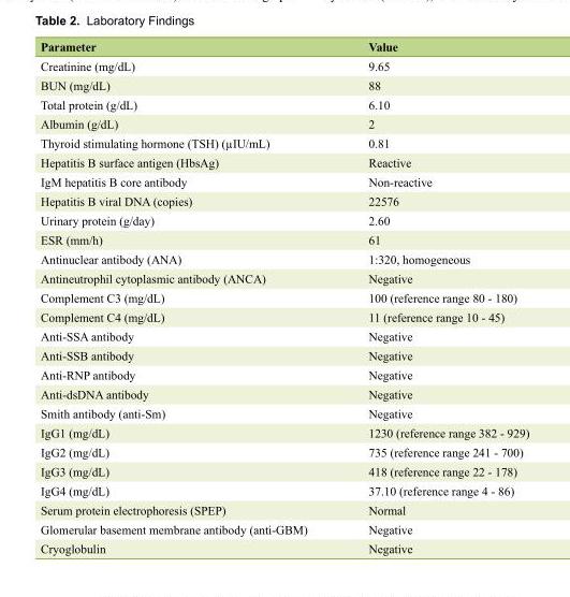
<table><thead><tr><td>Parameter</td><td>Value</td></tr></thead><tbody><tr><td>Creatinine (mg/dL)</td><td>9.65</td></tr><tr><td>BUN (mg/dL)</td><td>88</td></tr><tr><td>Total protein (g/dL)</td><td>6.10</td></tr><tr><td>Albumin (g/dL)</td><td>2</td></tr><tr><td>Thyroid stimulating hormone (TSH) (µIU/mL)</td><td>0.81</td></tr><tr><td>Hepatitis B surface antigen (HbsAg)</td><td>Reactive</td></tr><tr><td>IgM hepatitis B core antibody</td><td>Non-reactive</td></tr><tr><td>Hepatitis B viral DNA (copies)</td><td>22576</td></tr><tr><td>Urinary protein (g/day)</td><td>2.60</td></tr><tr><td>ESR (mm/h)</td><td>61</td></tr><tr><td>Antinuclear antibody (ANA)</td><td>1:320, homogeneous</td></tr><tr><td>Antineutrophil cytoplasmic antibody (ANCA)</td><td>Negative</td></tr><tr><td>Complement C3 (mg/dL)</td><td>100 (reference range 80 - 180)</td></tr><tr><td>Complement C4 (mg/dL)</td><td>11 (reference range 10 - 45)</td></tr><tr><td>Anti-SSA antibody</td><td>Negative</td></tr><tr><td>Anti-SSB antibody</td><td>Negative</td></tr><tr><td>Anti-RNP antibody</td><td>Negative</td></tr><tr><td>Anti-dsDNA antibody</td><td>Negative</td></tr><tr><td>Smith antibody (anti-Sm)</td><td>Negative</td></tr><tr><td>IgG1 (mg/dL)</td><td>1230 (reference range 382 - 929)</td></tr><tr><td>IgG2 (mg/dL)</td><td>735 (reference range 241 - 700)</td></tr><tr><td>IgG3 (mg/dL)</td><td>418 (reference range 22 - 178)</td></tr><tr><td>IgG4 (mg/dL)</td><td>37.10 (reference range 4 - 86)</td></tr><tr><td>Serum protein electrophoresis (SPEP)</td><td>Normal</td></tr><tr><td>Glomerular basement membrane antibody (anti-GBM)</td><td>Negative</td></tr><tr><td>Cryoglobulin</td><td>Negative</td></tr></tbody></table>